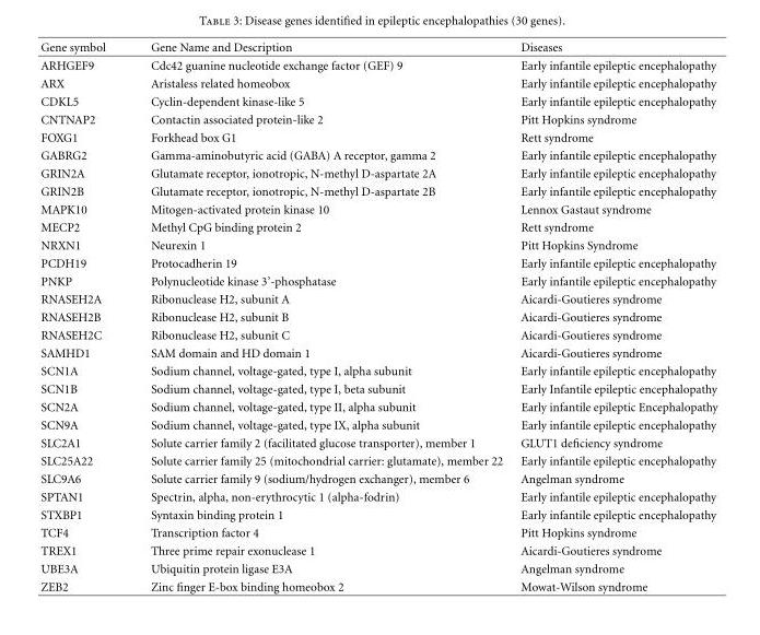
<table><thead><tr><td>Gene symbol</td><td>Gene Name and Description</td><td>Diseases</td></tr></thead><tbody><tr><td>ARHGEF9</td><td>Cdc42 guanine nucleotide exchange factor (GEF) 9</td><td>Early infantile epileptic encephalopathy</td></tr><tr><td>ARX</td><td>Aristaless related homeobox</td><td>Early infantile epileptic encephalopathy</td></tr><tr><td>CDKL5</td><td>Cyclin-dependent kinase-like 5</td><td>Early infantile epileptic encephalopathy</td></tr><tr><td>CNTNAP2</td><td>Contactin associated protein-like 2</td><td>Pitt Hopkins syndrome</td></tr><tr><td>FOXG1</td><td>Forkhead box G1</td><td>Rett syndrome</td></tr><tr><td>GABRG2</td><td>Gamma-aminobutyric acid (GABA) A receptor, gamma 2</td><td>Early infantile epileptic encephalopathy</td></tr><tr><td>GRIN2A</td><td>Glutamate receptor, ionotropic, N-methyl D-aspartate 2A</td><td>Early infantile epileptic encephalopathy</td></tr><tr><td>GRIN2B</td><td>Glutamate receptor, ionotropic, N-methyl D-aspartate 2B</td><td>Early infantile epileptic encephalopathy</td></tr><tr><td>MAPK10</td><td>Mitogen-activated protein kinase 10</td><td>Lennox Gastaut syndrome</td></tr><tr><td>MECP2</td><td>Methyl CpG binding protein 2</td><td>Rett syndrome</td></tr><tr><td>NRXN1</td><td>Neurexin 1</td><td>Pitt Hopkins Syndrome</td></tr><tr><td>PCDH19</td><td>Protocadherin 19</td><td>Early infantile epileptic encephalopathy</td></tr><tr><td>PNKP</td><td>Polynucleotide kinase 3’-phosphatase</td><td>Early infantile epileptic encephalopathy</td></tr><tr><td>RNASEH2A</td><td>Ribonuclease H2, subunit A</td><td>Aicardi-Goutieres syndrome</td></tr><tr><td>RNASEH2B</td><td>Ribonuclease H2, subunit B</td><td>Aicardi-Goutieres syndrome</td></tr><tr><td>RNASEH2C</td><td>Ribonuclease H2, subunit C</td><td>Aicardi-Goutieres syndrome</td></tr><tr><td>SAMHD1</td><td>SAM domain and HD domain 1</td><td>Aicardi-Goutieres syndrome</td></tr><tr><td>SCN1A</td><td>Sodium channel, voltage-gated, type I, alpha subunit</td><td>Early infantile epileptic encephalopathy</td></tr><tr><td>SCN1B</td><td>Sodium channel, voltage-gated, type I, beta subunit</td><td>Early Infantile epileptic encephalopathy</td></tr><tr><td>SCN2A</td><td>Sodium channel, voltage-gated, type II, alpha subunit</td><td>Early infantile epileptic Encephalopathy</td></tr><tr><td>SCN9A</td><td>Sodium channel, voltage-gated, type IX, alpha subunit</td><td>Early infantile epileptic encephalopathy</td></tr><tr><td>SLC2A1</td><td>Solute carrier family 2 (facilitated glucose transporter), member 1</td><td>GLUT1 deficiency syndrome</td></tr><tr><td>SLC25A22</td><td>Solute carrier family 25 (mitochondrial carrier: glutamate), member 22</td><td>Early infantile epileptic encephalopathy</td></tr><tr><td>SLC9A6</td><td>Solute carrier family 9 (sodium/hydrogen exchanger), member 6</td><td>Angelman syndrome</td></tr><tr><td>SPTAN1</td><td>Spectrin, alpha, non-erythrocytic 1 (alpha-fodrin)</td><td>Early infantile epileptic encephalopathy</td></tr><tr><td>STXBP1</td><td>Syntaxin binding protein 1</td><td>Early infantile epileptic encephalopathy</td></tr><tr><td>TCF4</td><td>Transcription factor 4</td><td>Pitt Hopkins syndrome</td></tr><tr><td>TREX1</td><td>Three prime repair exonuclease 1</td><td>Aicardi-Goutieres syndrome</td></tr><tr><td>UBE3A</td><td>Ubiquitin protein ligase E3A</td><td>Angelman syndrome</td></tr><tr><td>ZEB2</td><td>Zinc finger E-box binding homeobox 2</td><td>Mowat-Wilson syndrome</td></tr></tbody></table>